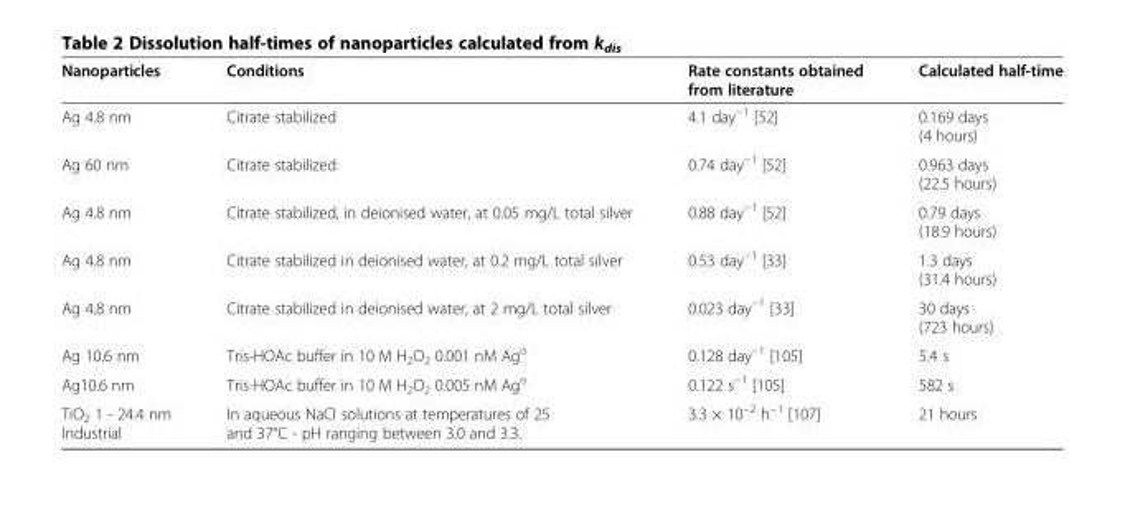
<table><thead><tr><td>Nanoparticles</td><td>Conditions</td><td>Rate constants obtained from literature</td><td>Calculated half-time</td></tr></thead><tbody><tr><td>Ag 4.8 nm</td><td>Citrate stabilized</td><td>4.1 day<sup>−1</sup> [52]</td><td>0.169 days (4 hours)</td></tr><tr><td>Ag 60 nm</td><td>Citrate stabilized</td><td>0.74 day<sup>−1</sup> [52]</td><td>0.963 days (22.5 hours)</td></tr><tr><td>Ag 4.8 nm</td><td>Citrate stabilized, in deionised water, at 0.05 mg/L total silver</td><td>0.88 day<sup>−1</sup> [52]</td><td>0.79 days (18.9 hours)</td></tr><tr><td>Ag 4.8 nm</td><td>Citrate stabilized in deionised water, at 0.2 mg/L total silver</td><td>0.53 day<sup>−1</sup> [33]</td><td>1.3 days (31.4 hours)</td></tr><tr><td>Ag 4.8 nm</td><td>Citrate stabilized in deionised water, at 2 mg/L total silver</td><td>0.023 day<sup>−1</sup> [33]</td><td>30 days (723 hours)</td></tr><tr><td>Ag 10.6 nm</td><td>Tris-HOAc buffer in 10 M H<sub>2</sub>O<sub>2</sub> 0.001 nM Ag<sup>o</sup></td><td>0.128 day<sup>−1</sup> [105]</td><td>5.4 s</td></tr><tr><td>Ag10.6 nm</td><td>Tris-HOAc buffer in 10 M H<sub>2</sub>O<sub>2</sub> 0.005 nM Ag<sup>o</sup></td><td>0.122 s<sup>−1</sup> [105]</td><td>582 s</td></tr><tr><td>TiO<sub>2</sub> 1 - 24.4 nm Industrial</td><td>In aqueous NaCl solutions at temperatures of 25 and 37°C - pH ranging between 3.0 and 3.3.</td><td>3.3 × 10<sup>−2</sup> h<sup>−1</sup> [107]</td><td>21 hours</td></tr></tbody></table>